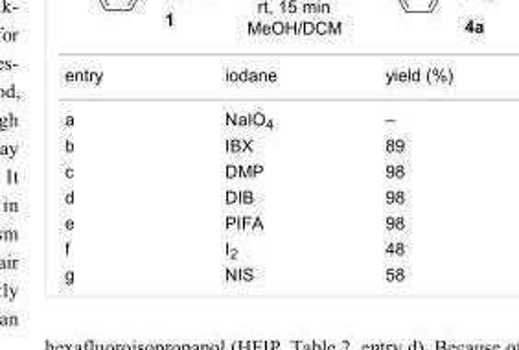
<table><tbody><tr><td>entry</td><td>iodane</td><td>yield (%)</td></tr><tr><td>a</td><td>NaIO<sub>4</sub></td><td>–</td></tr><tr><td>b</td><td>IBX</td><td>89</td></tr><tr><td>c</td><td>DMP</td><td>98</td></tr><tr><td>d</td><td>DIB</td><td>98</td></tr><tr><td>e</td><td>PIFA</td><td>98</td></tr><tr><td>f</td><td>I<sub>2</sub></td><td>48</td></tr><tr><td>g</td><td>NIS</td><td>58</td></tr></tbody></table>